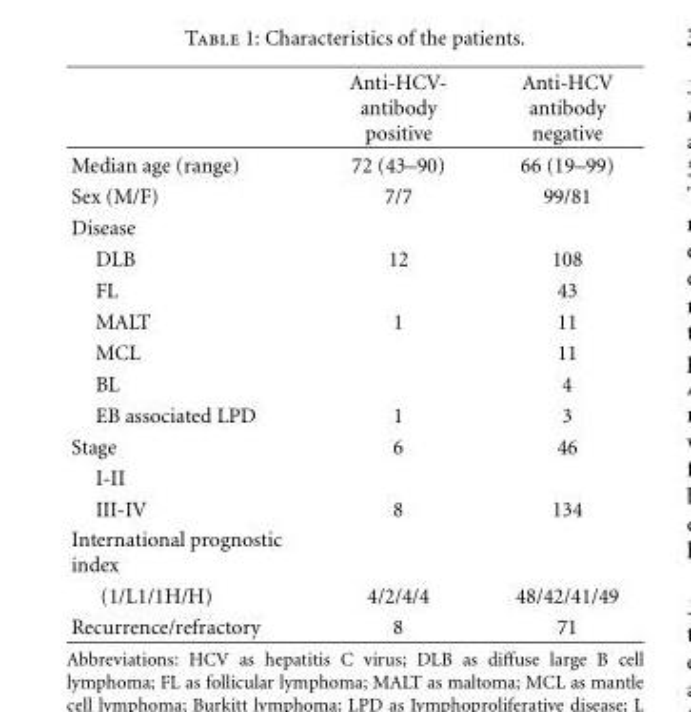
<table><thead><tr><td></td><td>Anti-HCV- antibody positive</td><td>Anti-HCV antibody negative</td></tr></thead><tbody><tr><td>Median age (range)</td><td>72 (43–90)</td><td>66 (19–99)</td></tr><tr><td>Sex (M/F)</td><td>7/7</td><td>99/81</td></tr><tr><td colspan="3">Disease</td></tr><tr><td>DLB</td><td>12</td><td>108</td></tr><tr><td>FL</td><td></td><td>43</td></tr><tr><td>MALT</td><td>1</td><td>11</td></tr><tr><td>MCL</td><td></td><td>11</td></tr><tr><td>BL</td><td></td><td>4</td></tr><tr><td>EB associated LPD</td><td>1</td><td>3</td></tr><tr><td>Stage</td><td>6</td><td>46</td></tr><tr><td colspan="3">I-II</td></tr><tr><td>III-IV</td><td>8</td><td>134</td></tr><tr><td colspan="3">International prognostic index</td></tr><tr><td>(1/L1/1H/H)</td><td>4/2/4/4</td><td>48/42/41/49</td></tr><tr><td>Recurrence/refractory</td><td>8</td><td>71</td></tr></tbody></table>